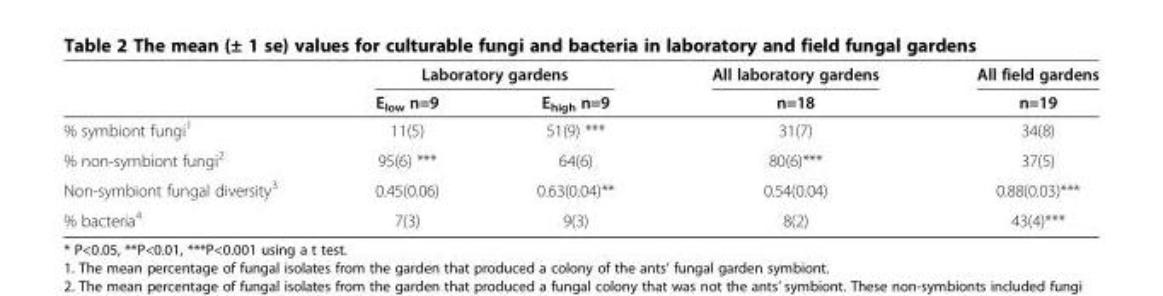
<table><thead><tr><td rowspan="2"></td><td colspan="2">Laboratory gardens</td><td rowspan="2">All laboratory gardens n=18</td><td rowspan="2">All field gardens n=19</td></tr><tr><td>E<sub>low</sub> n=9</td><td>E<sub>high</sub> n=9</td></tr></thead><tbody><tr><td>% symbiont fungi<sup>1</sup></td><td>11(5)</td><td>51(9) ***</td><td>31(7)</td><td>34(8)</td></tr><tr><td>% non-symbiont fungi<sup>2</sup></td><td>95(6) ***</td><td>64(6)</td><td>80(6)***</td><td>37(5)</td></tr><tr><td>Non-symbiont fungal diversity<sup>3</sup></td><td>0.45(0.06)</td><td>0.63(0.04)**</td><td>0.54(0.04)</td><td>0.88(0.03)***</td></tr><tr><td>% bacteria<sup>4</sup></td><td>7(3)</td><td>9(3)</td><td>8(2)</td><td>43(4)***</td></tr></tbody></table>